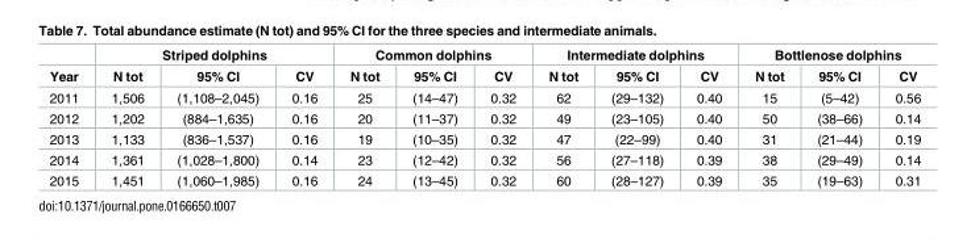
<table><thead><tr><td rowspan="2">Year</td><td colspan="3">Striped dolphins</td><td colspan="3">Common dolphins</td><td colspan="3">Intermediate dolphins</td><td colspan="3">Bottlenose dolphins</td></tr><tr><td>N tot</td><td>95% CI</td><td>CV</td><td>N tot</td><td>95% CI</td><td>CV</td><td>N tot</td><td>95% CI</td><td>CV</td><td>N tot</td><td>95% CI</td><td>CV</td></tr></thead><tbody><tr><td>2011</td><td>1,506</td><td>(1,108–2,045)</td><td>0.16</td><td>25</td><td>(14–47)</td><td>0.32</td><td>62</td><td>(29–132)</td><td>0.40</td><td>15</td><td>(5–42)</td><td>0.56</td></tr><tr><td>2012</td><td>1,202</td><td>(884–1,635)</td><td>0.16</td><td>20</td><td>(11–37)</td><td>0.32</td><td>49</td><td>(23–105)</td><td>0.40</td><td>50</td><td>(38–66)</td><td>0.14</td></tr><tr><td>2013</td><td>1,133</td><td>(836–1,537)</td><td>0.16</td><td>19</td><td>(10–35)</td><td>0.32</td><td>47</td><td>(22–99)</td><td>0.40</td><td>31</td><td>(21–44)</td><td>0.19</td></tr><tr><td>2014</td><td>1,361</td><td>(1,028–1,800)</td><td>0.14</td><td>23</td><td>(12–42)</td><td>0.32</td><td>56</td><td>(27–118)</td><td>0.39</td><td>38</td><td>(29–49)</td><td>0.14</td></tr><tr><td>2015</td><td>1,451</td><td>(1,060–1,985)</td><td>0.16</td><td>24</td><td>(13–45)</td><td>0.32</td><td>60</td><td>(28–127)</td><td>0.39</td><td>35</td><td>(19–63)</td><td>0.31</td></tr></tbody></table>